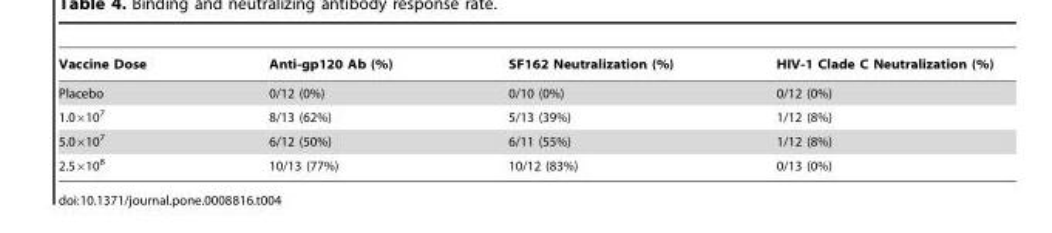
<table><thead><tr><td>Vaccine Dose</td><td>Anti-gp120 Ab (%)</td><td>SF162 Neutralization (%)</td><td>HIV-1 Clade C Neutralization (%)</td></tr></thead><tbody><tr><td>Placebo</td><td>0/12 (0%)</td><td>0/10 (0%)</td><td>0/12 (0%)</td></tr><tr><td>1.0×10<sup>7</sup></td><td>8/13 (62%)</td><td>5/13 (39%)</td><td>1/12 (8%)</td></tr><tr><td>5.0×10<sup>7</sup></td><td>6/12 (50%)</td><td>6/11 (55%)</td><td>1/12 (8%)</td></tr><tr><td>2.5×10<sup>8</sup></td><td>10/13 (77%)</td><td>10/12 (83%)</td><td>0/13 (0%)</td></tr></tbody></table>